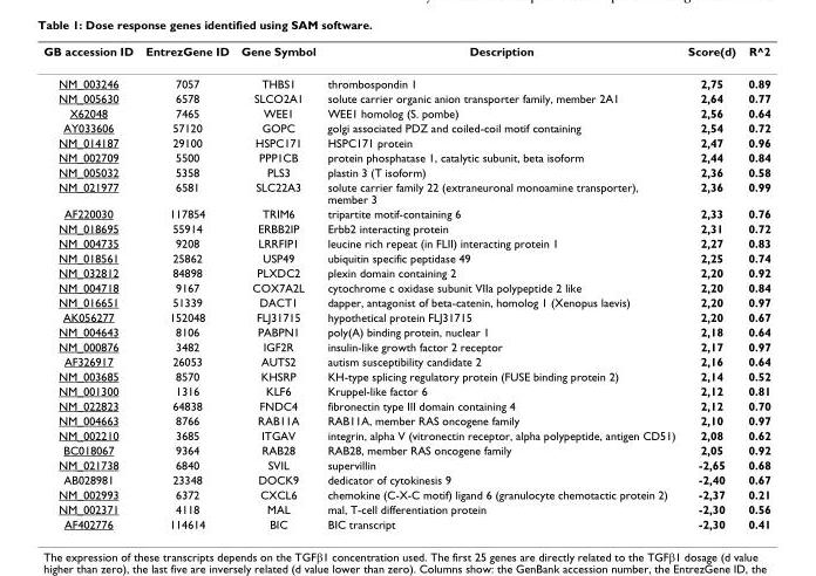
<table><thead><tr><td>GB accession ID</td><td>EntrezGene ID</td><td>Gene Symbol</td><td>Description</td><td>Score(d)</td><td>R^2</td></tr></thead><tbody><tr><td>NM_003246</td><td>7057</td><td>THBS1</td><td>thrombospondin 1</td><td>2,75</td><td>0.89</td></tr><tr><td>NM_005630</td><td>6578</td><td>SLCO2A1</td><td>solute carrier organic anion transporter family, member 2A1</td><td>2,64</td><td>0.77</td></tr><tr><td>X62048</td><td>7465</td><td>WEE1</td><td>WEE1 homolog (S. pombe)</td><td>2,56</td><td>0.64</td></tr><tr><td>AY033606</td><td>57120</td><td>GOPC</td><td>golgi associated PDZ and coiled-coil motif containing</td><td>2,54</td><td>0.72</td></tr><tr><td>NM_014187</td><td>29100</td><td>HSPC171</td><td>HSPC171 protein</td><td>2,47</td><td>0.96</td></tr><tr><td>NM_002709</td><td>5500</td><td>PPP1CB</td><td>protein phosphatase 1, catalytic subunit, beta isoform</td><td>2,44</td><td>0.84</td></tr><tr><td>NM_005032</td><td>5358</td><td>PLS3</td><td>plastin 3 (T isoform)</td><td>2,36</td><td>0.58</td></tr><tr><td>NM_021977</td><td>6581</td><td>SLC22A3</td><td>solute carrier family 22 (extraneuronal monoamine transporter), member 3</td><td>2,36</td><td>0.99</td></tr><tr><td>AF220030</td><td>117854</td><td>TRIM6</td><td>tripartite motif-containing 6</td><td>2,33</td><td>0.76</td></tr><tr><td>NM_018695</td><td>55914</td><td>ERBB2IP</td><td>Erbb2 interacting protein</td><td>2,31</td><td>0.72</td></tr><tr><td>NM_004735</td><td>9208</td><td>LRRFIP1</td><td>leucine rich repeat (in FLII) interacting protein 1</td><td>2,27</td><td>0.83</td></tr><tr><td>NM_018561</td><td>25862</td><td>USP49</td><td>ubiquitin specific peptidase 49</td><td>2,25</td><td>0.74</td></tr><tr><td>NM_032812</td><td>84898</td><td>PLXDC2</td><td>plexin domain containing 2</td><td>2,20</td><td>0.92</td></tr><tr><td>NM_004718</td><td>9167</td><td>COX7A2L</td><td>cytochrome c oxidase subunit VIIa polypeptide 2 like</td><td>2,20</td><td>0.84</td></tr><tr><td>NM_016651</td><td>51339</td><td>DACT1</td><td>dapper, antagonist of beta-catenin, homolog 1 (Xenopus laevis)</td><td>2,20</td><td>0.97</td></tr><tr><td>AK056277</td><td>152048</td><td>FLJ31715</td><td>hypothetical protein FLJ31715</td><td>2,20</td><td>0.67</td></tr><tr><td>NM_004643</td><td>8106</td><td>PABPN1</td><td>poly(A) binding protein, nuclear 1</td><td>2,18</td><td>0.64</td></tr><tr><td>NM_000876</td><td>3482</td><td>IGF2R</td><td>insulin-like growth factor 2 receptor</td><td>2,17</td><td>0.97</td></tr><tr><td>AF326917</td><td>26053</td><td>AUTS2</td><td>autism susceptibility candidate 2</td><td>2,16</td><td>0.64</td></tr><tr><td>NM_003685</td><td>8570</td><td>KHSRP</td><td>KH-type splicing regulatory protein (FUSE binding protein 2)</td><td>2,14</td><td>0.52</td></tr><tr><td>NM_001300</td><td>1316</td><td>KLF6</td><td>Kruppel-like factor 6</td><td>2,12</td><td>0.81</td></tr><tr><td>NM_022823</td><td>64838</td><td>FNDC4</td><td>fibronectin type III domain containing 4</td><td>2,12</td><td>0.70</td></tr><tr><td>NM_004663</td><td>8766</td><td>RAB11A</td><td>RAB11A, member RAS oncogene family</td><td>2,10</td><td>0.97</td></tr><tr><td>NM_002210</td><td>3685</td><td>ITGAV</td><td>integrin, alpha V (vitronectin receptor, alpha polypeptide, antigen CD51)</td><td>2,08</td><td>0.62</td></tr><tr><td>BC018067</td><td>9364</td><td>RAB28</td><td>RAB28, member RAS oncogene family</td><td>2,05</td><td>0.92</td></tr><tr><td>NM_021738</td><td>6840</td><td>SVIL</td><td>supervillin</td><td>-2,65</td><td>0.68</td></tr><tr><td>AB028981</td><td>23348</td><td>DOCK9</td><td>dedicator of cytokinesis 9</td><td>-2,40</td><td>0.67</td></tr><tr><td>NM_002993</td><td>6372</td><td>CXCL6</td><td>chemokine (C-X-C motif) ligand 6 (granulocyte chemotactic protein 2)</td><td>-2,37</td><td>0.21</td></tr><tr><td>NM_002371</td><td>4118</td><td>MAL</td><td>mal, T-cell differentiation protein</td><td>-2,30</td><td>0.56</td></tr><tr><td>AF402776</td><td>114614</td><td>BIC</td><td>BIC transcript</td><td>-2,30</td><td>0.41</td></tr></tbody></table>